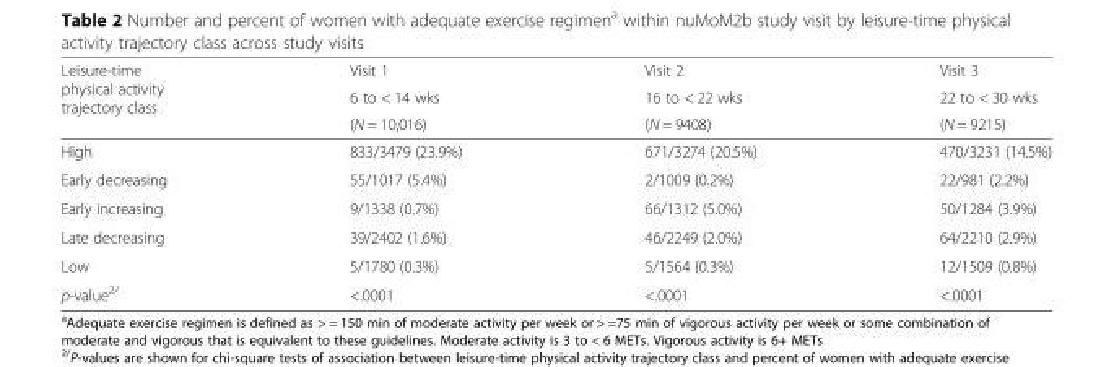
<table><thead><tr><td rowspan="3">Leisure-time physical activity trajectory class</td><td rowspan="3">Visit 1 6 to &lt; 14 wks (N = 10,016)</td><td rowspan="3">Visit 2 16 to &lt; 22 wks (N = 9408)</td><td rowspan="3">Visit 3 22 to &lt; 30 wks (N = 9215)</td></tr><tr></tr><tr></tr></thead><tbody><tr><td>High</td><td>833/3479 (23.9%)</td><td>671/3274 (20.5%)</td><td>470/3231 (14.5%)</td></tr><tr><td>Early decreasing</td><td>55/1017 (5.4%)</td><td>2/1009 (0.2%)</td><td>22/981 (2.2%)</td></tr><tr><td>Early increasing</td><td>9/1338 (0.7%)</td><td>66/1312 (5.0%)</td><td>50/1284 (3.9%)</td></tr><tr><td>Late decreasing</td><td>39/2402 (1.6%)</td><td>46/2249 (2.0%)</td><td>64/2210 (2.9%)</td></tr><tr><td>Low</td><td>5/1780 (0.3%)</td><td>5/1564 (0.3%)</td><td>12/1509 (0.8%)</td></tr><tr><td>p-value<sup>2/</sup></td><td>&lt;.0001</td><td>&lt;.0001</td><td>&lt;.0001</td></tr></tbody></table>